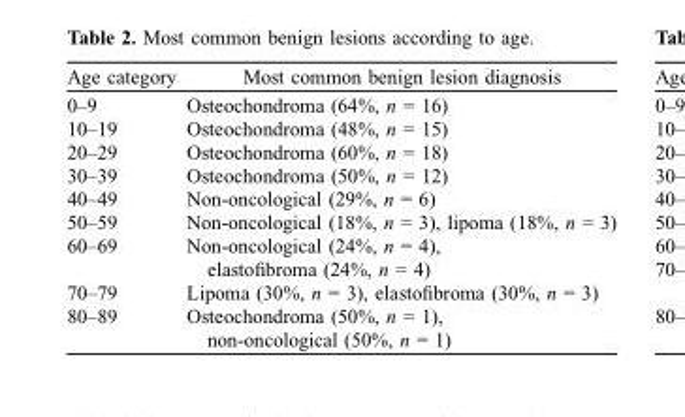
<table><thead><tr><td>Age category</td><td>Most common benign lesion diagnosis</td></tr></thead><tbody><tr><td>0–9</td><td>Osteochondroma (64%, n = 16)</td></tr><tr><td>10–19</td><td>Osteochondroma (48%, n = 15)</td></tr><tr><td>20–29</td><td>Osteochondroma (60%, n = 18)</td></tr><tr><td>30–39</td><td>Osteochondroma (50%, n = 12)</td></tr><tr><td>40–49</td><td>Non-oncological (29%, n = 6)</td></tr><tr><td>50–59</td><td>Non-oncological (18%, n = 3), lipoma (18%, n = 3)</td></tr><tr><td>60–69</td><td>Non-oncological (24%, n = 4), elastofibroma (24%, n = 4)</td></tr><tr><td>70–79</td><td>Lipoma (30%, n = 3), elastofibroma (30%, n = 3)</td></tr><tr><td>80–89</td><td>Osteochondroma (50%, n = 1), non-oncological (50%, n = 1)</td></tr></tbody></table>